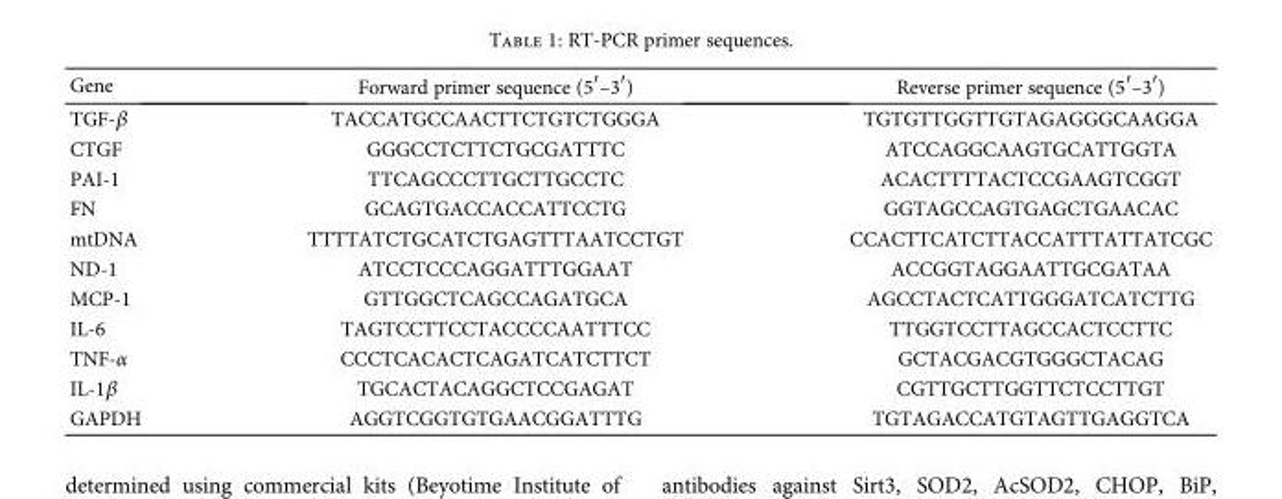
<table><thead><tr><td>Gene</td><td>Forward primer sequence (5′–3′)</td><td>Reverse primer sequence (5′–3′)</td></tr></thead><tbody><tr><td>TGF-β</td><td>TACCATGCCAACTTCTGTCTGGGA</td><td>TGTGTTGGTTGTAGAGGGCAAGGA</td></tr><tr><td>CTGF</td><td>GGGCCTCTTCTGCGATTTC</td><td>ATCCAGGCAAGTGCATTGGTA</td></tr><tr><td>PAI-1</td><td>TTCAGCCCTTGCTTGCCTC</td><td>ACACTTTTACTCCGAAGTCGGT</td></tr><tr><td>FN</td><td>GCAGTGACCACCATTCCTG</td><td>GGTAGCCAGTGAGCTGAACAC</td></tr><tr><td>mtDNA</td><td>TTTTATCTGCATCTGAGTTTAATCCTGT</td><td>CCACTTCATCTTACCATTTATTATCGC</td></tr><tr><td>ND-1</td><td>ATCCTCCCAGGATTTGGAAT</td><td>ACCGGTAGGAATTGCGATAA</td></tr><tr><td>MCP-1</td><td>GTTGGCTCAGCCAGATGCA</td><td>AGCCTACTCATTGGGATCATCTTG</td></tr><tr><td>IL-6</td><td>TAGTCCTTCCTACCCCAATTTCC</td><td>TTGGTCCTTAGCCACTCCTTC</td></tr><tr><td>TNF-α</td><td>CCCTCACACTCAGATCATCTTCT</td><td>GCTACGACGTGGGCTACAG</td></tr><tr><td>IL-1β</td><td>TGCACTACAGGCTCCGAGAT</td><td>CGTTGCTTGGTTCTCCTTGT</td></tr><tr><td>GAPDH</td><td>AGGTCGGTGTGAACGGATTTG</td><td>TGTAGACCATGTAGTTGAGGTCA</td></tr></tbody></table>